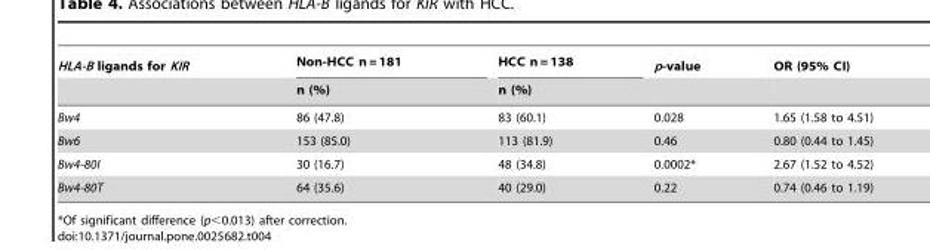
<table><thead><tr><td rowspan="2">HLA-B ligands for KIR</td><td rowspan="2">Non-HCC n = 181 n (%)</td><td rowspan="2">HCC n = 138 n (%)</td><td rowspan="2">p-value</td><td rowspan="2">OR (95% CI)</td></tr><tr></tr></thead><tbody><tr><td>Bw4</td><td>86 (47.8)</td><td>83 (60.1)</td><td>0.028</td><td>1.65 (1.58 to 4.51)</td></tr><tr><td>Bw6</td><td>153 (85.0)</td><td>113 (81.9)</td><td>0.46</td><td>0.80 (0.44 to 1.45)</td></tr><tr><td>Bw4-80I</td><td>30 (16.7)</td><td>48 (34.8)</td><td>0.0002*</td><td>2.67 (1.52 to 4.52)</td></tr><tr><td>Bw4-80T</td><td>64 (35.6)</td><td>40 (29.0)</td><td>0.22</td><td>0.74 (0.46 to 1.19)</td></tr></tbody></table>